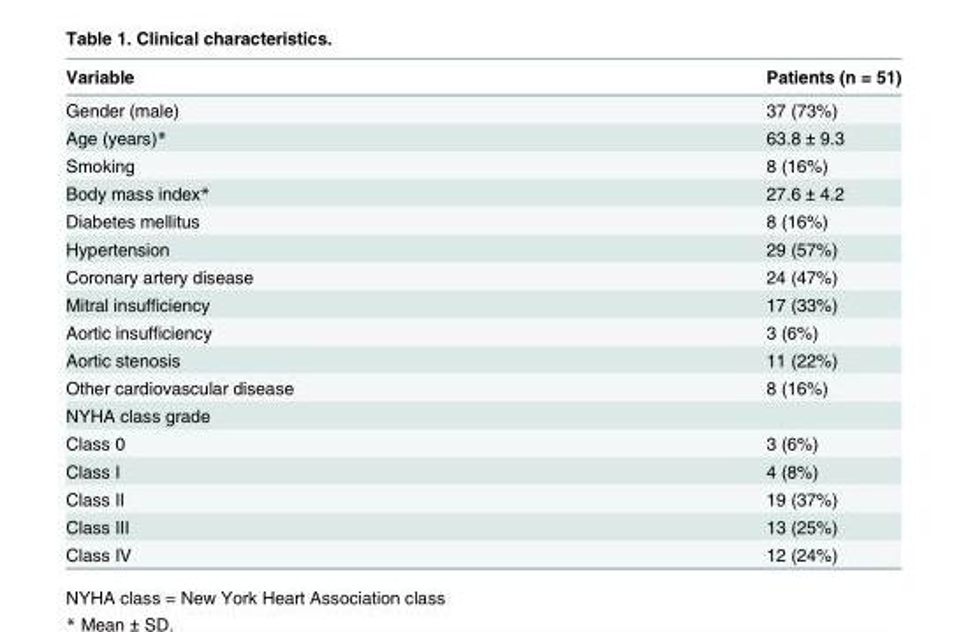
<table><thead><tr><td>Variable</td><td>Patients (n = 51)</td></tr></thead><tbody><tr><td>Gender (male)</td><td>37 (73%)</td></tr><tr><td>Age (years)*</td><td>63.8 ± 9.3</td></tr><tr><td>Smoking</td><td>8 (16%)</td></tr><tr><td>Body mass index*</td><td>27.6 ± 4.2</td></tr><tr><td>Diabetes mellitus</td><td>8 (16%)</td></tr><tr><td>Hypertension</td><td>29 (57%)</td></tr><tr><td>Coronary artery disease</td><td>24 (47%)</td></tr><tr><td>Mitral insufficiency</td><td>17 (33%)</td></tr><tr><td>Aortic insufficiency</td><td>3 (6%)</td></tr><tr><td>Aortic stenosis</td><td>11 (22%)</td></tr><tr><td>Other cardiovascular disease</td><td>8 (16%)</td></tr><tr><td colspan="2">NYHA class grade</td></tr><tr><td>Class 0</td><td>3 (6%)</td></tr><tr><td>Class I</td><td>4 (8%)</td></tr><tr><td>Class II</td><td>19 (37%)</td></tr><tr><td>Class III</td><td>13 (25%)</td></tr><tr><td>Class IV</td><td>12 (24%)</td></tr></tbody></table>